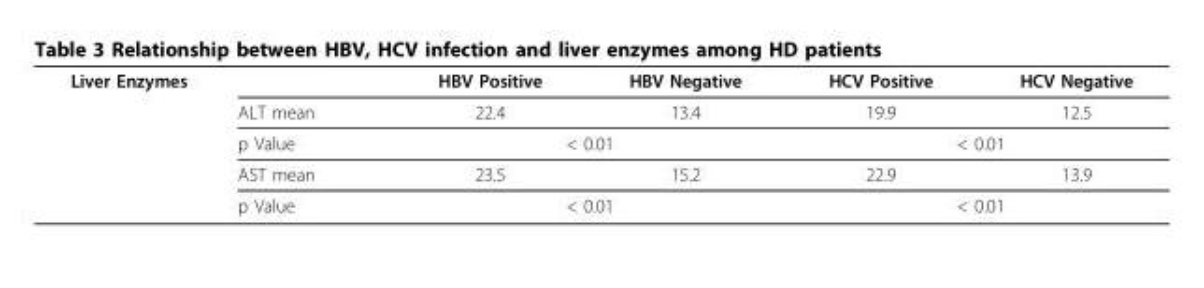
<table><tbody><tr><td rowspan="5">Liver Enzymes</td><td></td><td>HBV Positive</td><td>HBV Negative</td><td>HCV Positive</td><td>HCV Negative</td></tr><tr><td>ALT mean</td><td>22.4</td><td>13.4</td><td>19.9</td><td>12.5</td></tr><tr><td>p Value</td><td colspan="2">&lt; 0.01</td><td colspan="2">&lt; 0.01</td></tr><tr><td>AST mean</td><td>23.5</td><td>15.2</td><td>22.9</td><td>13.9</td></tr><tr><td>p Value</td><td colspan="2">&lt; 0.01</td><td colspan="2">&lt; 0.01</td></tr></tbody></table>